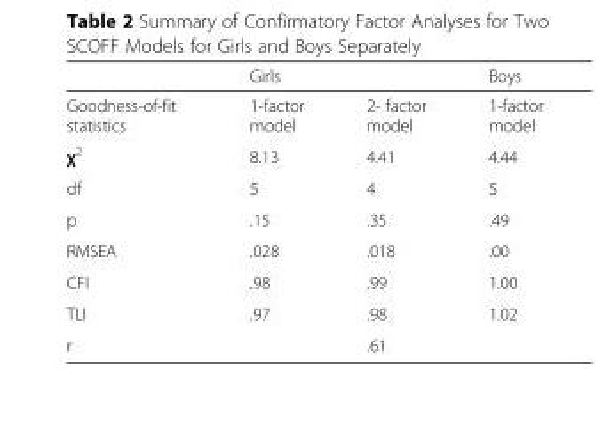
<table><thead><tr><td rowspan="2">Goodness-of-fit statistics</td><td colspan="2">Girls</td><td rowspan="2">Boys 1-factor model</td></tr><tr><td>1-factor model</td><td>2- factor model</td></tr></thead><tbody><tr><td>χ<sup>2</sup></td><td>8.13</td><td>4.41</td><td>4.44</td></tr><tr><td>df</td><td>5</td><td>4</td><td>5</td></tr><tr><td>p</td><td>.15</td><td>.35</td><td>.49</td></tr><tr><td>RMSEA</td><td>.028</td><td>.018</td><td>.00</td></tr><tr><td>CFI</td><td>.98</td><td>.99</td><td>1.00</td></tr><tr><td>TLI</td><td>.97</td><td>.98</td><td>1.02</td></tr><tr><td>r</td><td></td><td>.61</td><td></td></tr></tbody></table>